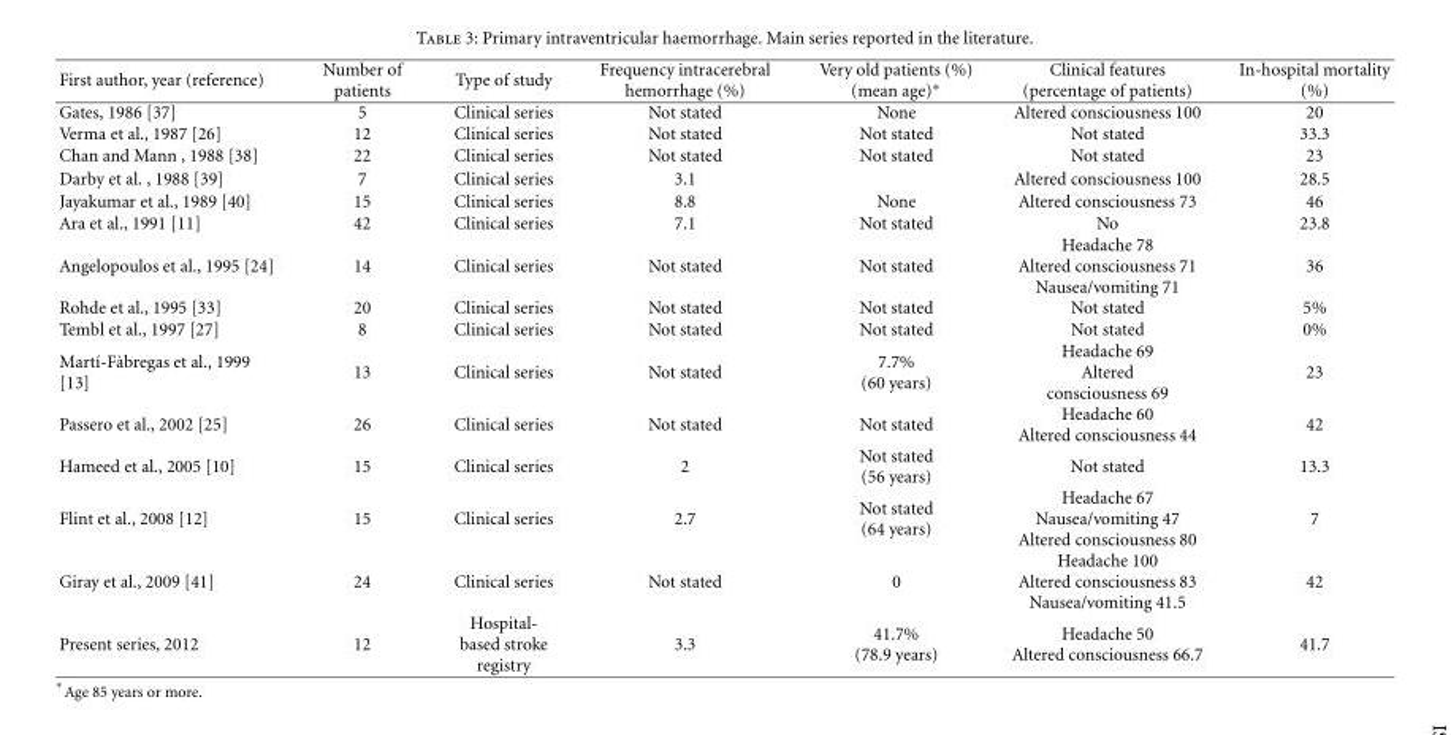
<table><thead><tr><td>First author, year (reference)</td><td>Number of patients</td><td>Type of study</td><td>Frequency intracerebral hemorrhage (%)</td><td>Very old patients (%) (mean age)∗</td><td>Clinical features (percentage of patients)</td><td>In-hospital mortality (%)</td></tr></thead><tbody><tr><td>Gates, 1986 [37]</td><td>5</td><td>Clinical series</td><td>Not stated</td><td>None</td><td>Altered consciousness 100</td><td>20</td></tr><tr><td>Verma et al., 1987 [26]</td><td>12</td><td>Clinical series</td><td>Not stated</td><td>Not stated</td><td>Not stated</td><td>33.3</td></tr><tr><td>Chan and Mann , 1988 [38]</td><td>22</td><td>Clinical series</td><td>Not stated</td><td>Not stated</td><td>Not stated</td><td>23</td></tr><tr><td>Darby et al. , 1988 [39]</td><td>7</td><td>Clinical series</td><td>3.1</td><td></td><td>Altered consciousness 100</td><td>28.5</td></tr><tr><td>Jayakumar et al., 1989 [40]</td><td>15</td><td>Clinical series</td><td>8.8</td><td>None</td><td>Altered consciousness 73</td><td>46</td></tr><tr><td>Ara et al., 1991 [11]</td><td>42</td><td>Clinical series</td><td>7.1</td><td>Not stated</td><td>No</td><td>23.8</td></tr><tr><td>Angelopoulos et al., 1995 [24]</td><td>14</td><td>Clinical series</td><td>Not stated</td><td>Not stated</td><td>Headache 78 Altered consciousness 71 Nausea/vomiting 71</td><td>36</td></tr><tr><td>Rohde et al., 1995 [33]</td><td>20</td><td>Clinical series</td><td>Not stated</td><td>Not stated</td><td>Not stated</td><td>5%</td></tr><tr><td>Tembl et al., 1997 [27]</td><td>8</td><td>Clinical series</td><td>Not stated</td><td>Not stated</td><td>Not stated</td><td>0%</td></tr><tr><td>Mart´ı-F`abregas et al., 1999 [13]</td><td>13</td><td>Clinical series</td><td>Not stated</td><td>7.7% (60 years)</td><td>Headache 69 Altered consciousness 69</td><td>23</td></tr><tr><td>Passero et al., 2002 [25]</td><td>26</td><td>Clinical series</td><td>Not stated</td><td>Not stated</td><td>Headache 60 Altered consciousness 44</td><td>42</td></tr><tr><td>Hameed et al., 2005 [10]</td><td>15</td><td>Clinical series</td><td>2</td><td>Not stated (56 years)</td><td>Not stated</td><td>13.3</td></tr><tr><td>Flint et al., 2008 [12]</td><td>15</td><td>Clinical series</td><td>2.7</td><td>Not stated (64 years)</td><td>Headache 67 Nausea/vomiting 47 Altered consciousness 80</td><td>7</td></tr><tr><td>Giray et al., 2009 [41]</td><td>24</td><td>Clinical series</td><td>Not stated</td><td>0</td><td>Headache 100 Altered consciousness 83 Nausea/vomiting 41.5</td><td>42</td></tr><tr><td>Present series, 2012</td><td>12</td><td>Hospital- based stroke registry</td><td>3.3</td><td>41.7% (78.9 years)</td><td>Headache 50 Altered consciousness 66.7</td><td>41.7</td></tr></tbody></table>